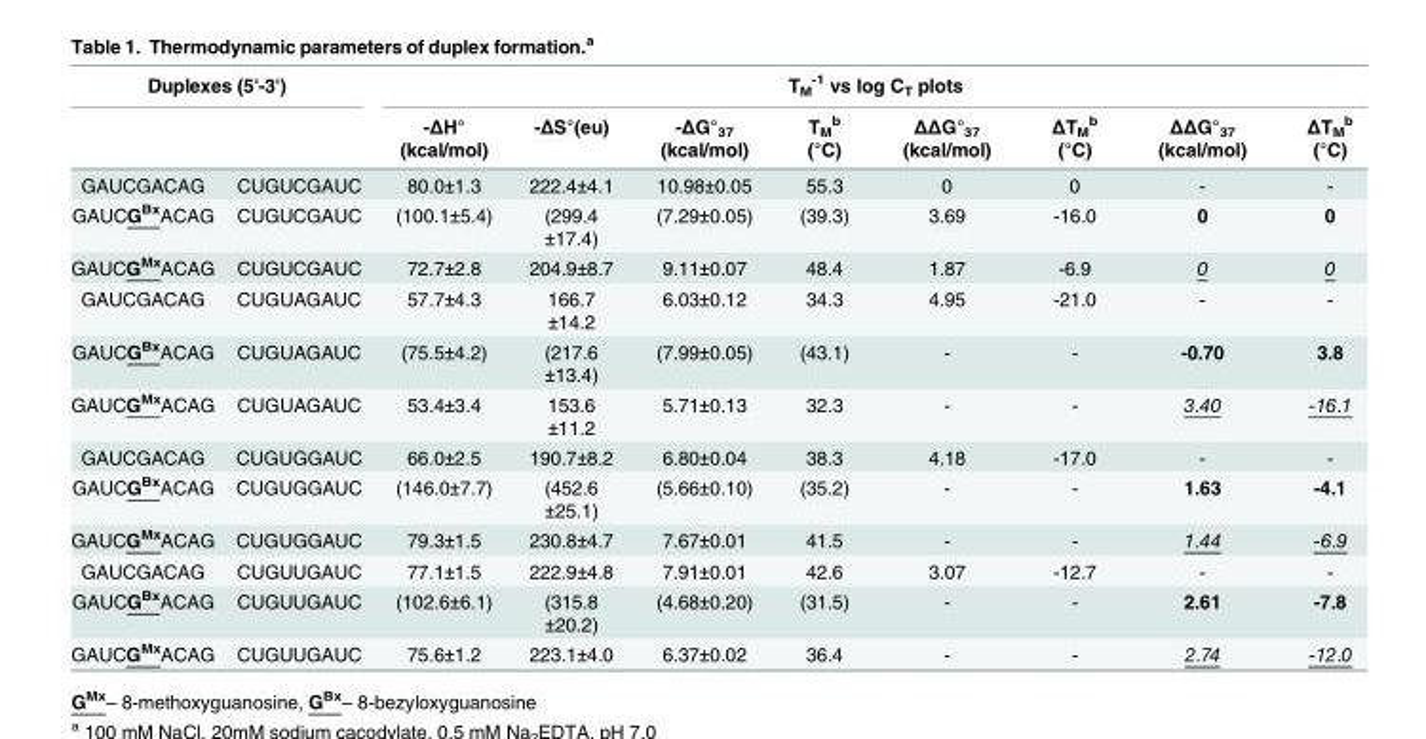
<table><thead><tr><td colspan="2">Duplexes (5&#x27;-3&#x27;)</td><td colspan="8">T<sub>M</sub> <sup>-1</sup> vs log C<sub>T</sub> plots</td></tr><tr><td></td><td></td><td>-ΔH° (kcal/mol)</td><td>-ΔS°(eu)</td><td>-ΔG°<sub>37</sub> (kcal/mol)</td><td>T<sub>M</sub> <sup>b</sup> (°C)</td><td>ΔΔG°<sub>37</sub> (kcal/mol)</td><td>ΔT<sub>M</sub> <sup>b</sup> (°C)</td><td>ΔΔG°<sub>37</sub> (kcal/mol)</td><td>ΔT<sub>M</sub> <sup>b</sup> (°C)</td></tr></thead><tbody><tr><td>GAUCGACAG</td><td>CUGUCGAUC</td><td>80.0±1.3</td><td>222.4±4.1</td><td>10.98±0.05</td><td>55.3</td><td>0</td><td>0</td><td>-</td><td>-</td></tr><tr><td>GAUCG<sup>Bx</sup>ACAG</td><td>CUGUCGAUC</td><td>(100.1±5.4)</td><td>(299.4 ±17.4)</td><td>(7.29±0.05)</td><td>(39.3)</td><td>3.69</td><td>-16.0</td><td>0</td><td>0</td></tr><tr><td>GAUCG<sup>Mx</sup>ACAG</td><td>CUGUCGAUC</td><td>72.7±2.8</td><td>204.9±8.7</td><td>9.11±0.07</td><td>48.4</td><td>1.87</td><td>-6.9</td><td>0</td><td>0</td></tr><tr><td>GAUCGACAG</td><td>CUGUAGAUC</td><td>57.7±4.3</td><td>166.7 ±14.2</td><td>6.03±0.12</td><td>34.3</td><td>4.95</td><td>-21.0</td><td>-</td><td>-</td></tr><tr><td>GAUCG<sup>Bx</sup>ACAG</td><td>CUGUAGAUC</td><td>(75.5±4.2)</td><td>(217.6 ±13.4)</td><td>(7.99±0.05)</td><td>(43.1)</td><td>-</td><td>-</td><td>-0.70</td><td>3.8</td></tr><tr><td>GAUCG<sup>Mx</sup>ACAG</td><td>CUGUAGAUC</td><td>53.4±3.4</td><td>153.6 ±11.2</td><td>5.71±0.13</td><td>32.3</td><td>-</td><td>-</td><td>3.40</td><td>-16.1</td></tr><tr><td>GAUCGACAG</td><td>CUGUGGAUC</td><td>66.0±2.5</td><td>190.7±8.2</td><td>6.80±0.04</td><td>38.3</td><td>4.18</td><td>-17.0</td><td>-</td><td>-</td></tr><tr><td>GAUCG<sup>Bx</sup>ACAG</td><td>CUGUGGAUC</td><td>(146.0±7.7)</td><td>(452.6 ±25.1)</td><td>(5.66±0.10)</td><td>(35.2)</td><td>-</td><td>-</td><td>1.63</td><td>-4.1</td></tr><tr><td>GAUCG<sup>Mx</sup>ACAG</td><td>CUGUGGAUC</td><td>79.3±1.5</td><td>230.8±4.7</td><td>7.67±0.01</td><td>41.5</td><td>-</td><td>-</td><td>1.44</td><td>-6.9</td></tr><tr><td>GAUCGACAG</td><td>CUGUUGAUC</td><td>77.1±1.5</td><td>222.9±4.8</td><td>7.91±0.01</td><td>42.6</td><td>3.07</td><td>-12.7</td><td>-</td><td>-</td></tr><tr><td>GAUCG<sup>Bx</sup>ACAG</td><td>CUGUUGAUC</td><td>(102.6±6.1)</td><td>(315.8 ±20.2)</td><td>(4.68±0.20)</td><td>(31.5)</td><td>-</td><td>-</td><td>2.61</td><td>-7.8</td></tr><tr><td>GAUCG<sup>Mx</sup>ACAG</td><td>CUGUUGAUC</td><td>75.6±1.2</td><td>223.1±4.0</td><td>6.37±0.02</td><td>36.4</td><td>-</td><td>-</td><td>2.74</td><td>-12.0</td></tr></tbody></table>